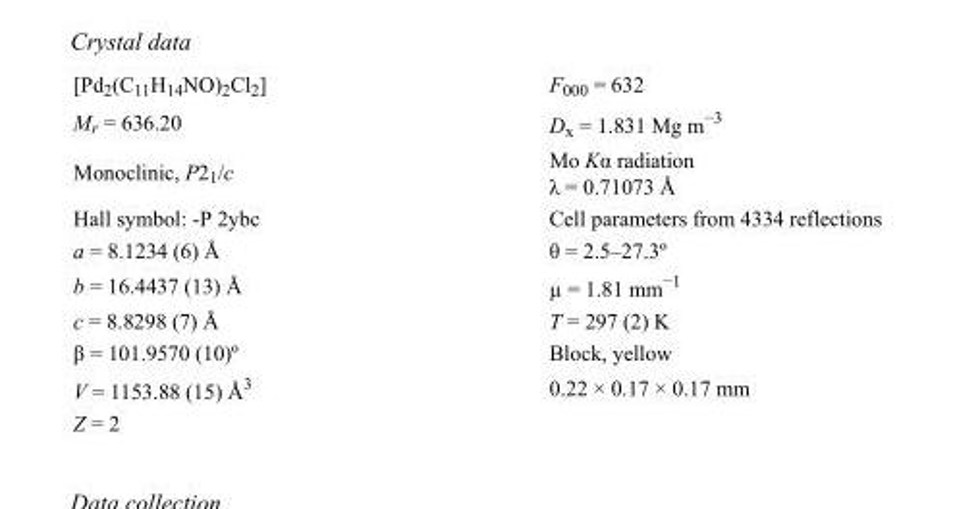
<table><tbody><tr><td>[Pd<sub>2</sub>(C<sub>11</sub>H<sub>14</sub>NO)<sub>2</sub>Cl<sub>2</sub>]</td><td>F<sub>000</sub> = 632</td></tr><tr><td>M<sub>r</sub> = 636.20</td><td>D<sub>x</sub> = 1.831 Mg m<sup>−3</sup></td></tr><tr><td>Monoclinic, P2<sub>1</sub>/c</td><td>Mo Kα radiation λ = 0.71073 Å</td></tr><tr><td>Hall symbol: -P 2ybc</td><td>Cell parameters from 4334 reflections</td></tr><tr><td>a = 8.1234 (6) Å</td><td>θ = 2.5–27.3º</td></tr><tr><td>b = 16.4437 (13) Å</td><td>µ = 1.81 mm<sup>−1</sup></td></tr><tr><td>c = 8.8298 (7) Å</td><td>T = 297 (2) K</td></tr><tr><td>β = 101.9570 (10)º</td><td>Block, yellow</td></tr><tr><td>V = 1153.88 (15) Å<sup>3</sup></td><td>0.22 × 0.17 × 0.17 mm</td></tr><tr><td>Z = 2</td><td></td></tr></tbody></table>